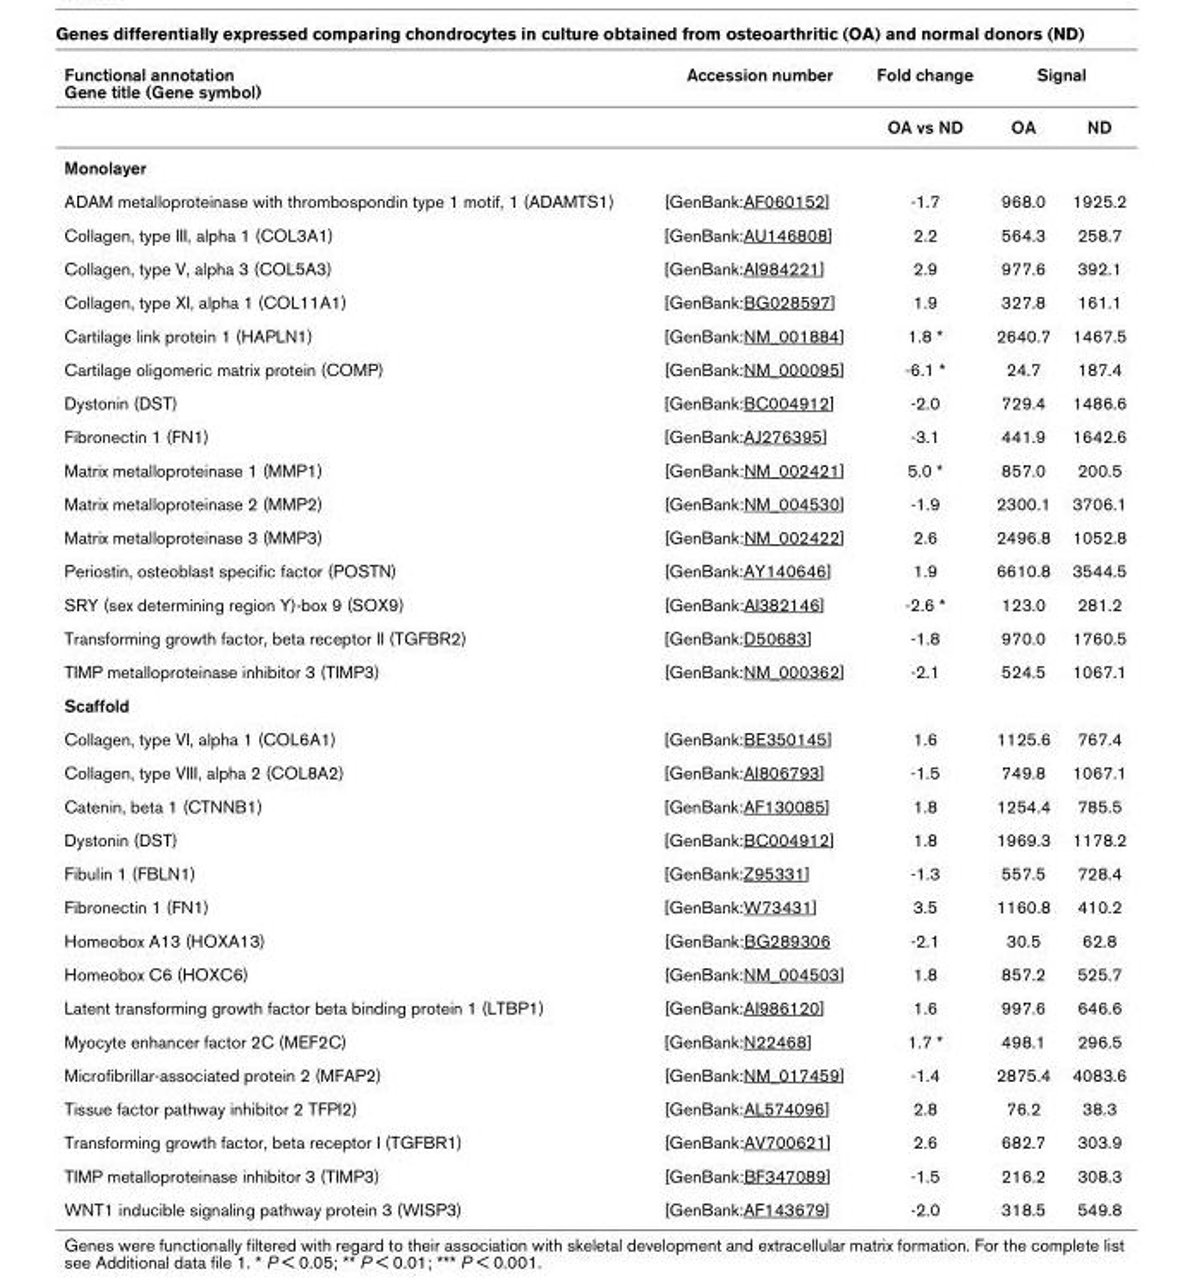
<table><thead><tr><td rowspan="2">Functional annotation Gene title (Gene symbol)</td><td rowspan="2">Accession number</td><td rowspan="2">Fold change OA vs ND</td><td colspan="2">Signal</td></tr><tr><td>OA</td><td>ND</td></tr></thead><tbody><tr><td colspan="5">Monolayer</td></tr><tr><td>ADAM metalloproteinase with thrombospondin type 1 motif, 1 (ADAMTS1)</td><td>[GenBank:AF060152]</td><td>-1.7</td><td>968.0</td><td>1925.2</td></tr><tr><td>Collagen, type III, alpha 1 (COL3A1)</td><td>[GenBank:AU146808]</td><td>2.2</td><td>564.3</td><td>258.7</td></tr><tr><td>Collagen, type V, alpha 3 (COL5A3)</td><td>[GenBank:AI984221]</td><td>2.9</td><td>977.6</td><td>392.1</td></tr><tr><td>Collagen, type XI, alpha 1 (COL11A1)</td><td>[GenBank:BG028597]</td><td>1.9</td><td>327.8</td><td>161.1</td></tr><tr><td>Cartilage link protein 1 (HAPLN1)</td><td>[GenBank:NM_001884]</td><td>1.8 *</td><td>2640.7</td><td>1467.5</td></tr><tr><td>Cartilage oligomeric matrix protein (COMP)</td><td>[GenBank:NM_000095]</td><td>-6.1 *</td><td>24.7</td><td>187.4</td></tr><tr><td>Dystonin (DST)</td><td>[GenBank:BC004912]</td><td>-2.0</td><td>729.4</td><td>1486.6</td></tr><tr><td>Fibronectin 1 (FN1)</td><td>[GenBank:AJ276395]</td><td>-3.1</td><td>441.9</td><td>1642.6</td></tr><tr><td>Matrix metalloproteinase 1 (MMP1)</td><td>[GenBank:NM_002421]</td><td>5.0 *</td><td>857.0</td><td>200.5</td></tr><tr><td>Matrix metalloproteinase 2 (MMP2)</td><td>[GenBank:NM_004530]</td><td>-1.9</td><td>2300.1</td><td>3706.1</td></tr><tr><td>Matrix metalloproteinase 3 (MMP3)</td><td>[GenBank:NM_002422]</td><td>2.6</td><td>2496.8</td><td>1052.8</td></tr><tr><td>Periostin, osteoblast specific factor (POSTN)</td><td>[GenBank:AY140646]</td><td>1.9</td><td>6610.8</td><td>3544.5</td></tr><tr><td>SRY (sex determining region Y)-box 9 (SOX9)</td><td>[GenBank:AI382146]</td><td>-2.6 *</td><td>123.0</td><td>281.2</td></tr><tr><td>Transforming growth factor, beta receptor II (TGFBR2)</td><td>[GenBank:D50683]</td><td>-1.8</td><td>970.0</td><td>1760.5</td></tr><tr><td>TIMP metalloproteinase inhibitor 3 (TIMP3)</td><td>[GenBank:NM_000362]</td><td>-2.1</td><td>524.5</td><td>1067.1</td></tr><tr><td colspan="5">Scaffold</td></tr><tr><td>Collagen, type VI, alpha 1 (COL6A1)</td><td>[GenBank:BE350145]</td><td>1.6</td><td>1125.6</td><td>767.4</td></tr><tr><td>Collagen, type VIII, alpha 2 (COL8A2)</td><td>[GenBank:AI806793]</td><td>-1.5</td><td>749.8</td><td>1067.1</td></tr><tr><td>Catenin, beta 1 (CTNNB1)</td><td>[GenBank:AF130085]</td><td>1.8</td><td>1254.4</td><td>785.5</td></tr><tr><td>Dystonin (DST)</td><td>[GenBank:BC004912]</td><td>1.8</td><td>1969.3</td><td>1178.2</td></tr><tr><td>Fibulin 1 (FBLN1)</td><td>[GenBank:Z95331]</td><td>-1.3</td><td>557.5</td><td>728.4</td></tr><tr><td>Fibronectin 1 (FN1)</td><td>[GenBank:W73431]</td><td>3.5</td><td>1160.8</td><td>410.2</td></tr><tr><td>Homeobox A13 (HOXA13)</td><td>[GenBank:BG289306</td><td>-2.1</td><td>30.5</td><td>62.8</td></tr><tr><td>Homeobox C6 (HOXC6)</td><td>[GenBank:NM_004503]</td><td>1.8</td><td>857.2</td><td>525.7</td></tr><tr><td>Latent transforming growth factor beta binding protein 1 (LTBP1)</td><td>[GenBank:AI986120]</td><td>1.6</td><td>997.6</td><td>646.6</td></tr><tr><td>Myocyte enhancer factor 2C (MEF2C)</td><td>[GenBank:N22468]</td><td>1.7 *</td><td>498.1</td><td>296.5</td></tr><tr><td>Microfibrillar-associated protein 2 (MFAP2)</td><td>[GenBank:NM_017459]</td><td>-1.4</td><td>2875.4</td><td>4083.6</td></tr><tr><td>Tissue factor pathway inhibitor 2 TFPI2)</td><td>[GenBank:AL574096]</td><td>2.8</td><td>76.2</td><td>38.3</td></tr><tr><td>Transforming growth factor, beta receptor I (TGFBR1)</td><td>[GenBank:AV700621]</td><td>2.6</td><td>682.7</td><td>303.9</td></tr><tr><td>TIMP metalloproteinase inhibitor 3 (TIMP3)</td><td>[GenBank:BF347089]</td><td>-1.5</td><td>216.2</td><td>308.3</td></tr><tr><td>WNT1 inducible signaling pathway protein 3 (WISP3)</td><td>[GenBank:AF143679]</td><td>-2.0</td><td>318.5</td><td>549.8</td></tr></tbody></table>